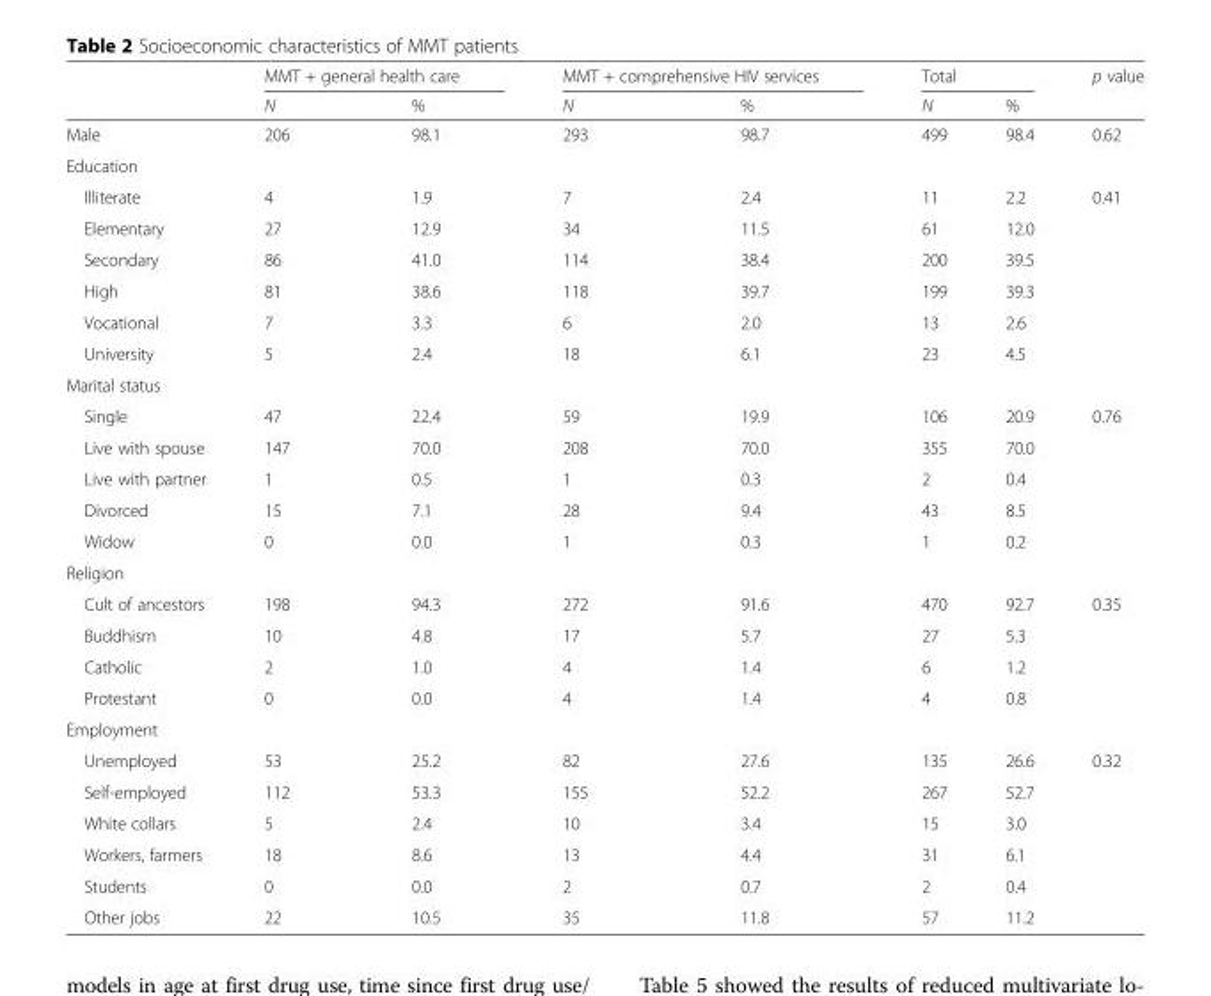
<table><thead><tr><td rowspan="2"></td><td colspan="2">MMT + general health care</td><td colspan="2">MMT + comprehensive HIV services</td><td colspan="2">Total</td><td rowspan="2">p value</td></tr><tr><td>N</td><td>%</td><td>N</td><td>%</td><td>N</td><td>%</td></tr></thead><tbody><tr><td>Male</td><td>206</td><td>98.1</td><td>293</td><td>98.7</td><td>499</td><td>98.4</td><td>0.62</td></tr><tr><td colspan="8">Education</td></tr><tr><td>Illiterate</td><td>4</td><td>1.9</td><td>7</td><td>2.4</td><td>11</td><td>2.2</td><td>0.41</td></tr><tr><td>Elementary</td><td>27</td><td>12.9</td><td>34</td><td>11.5</td><td>61</td><td>12.0</td><td></td></tr><tr><td>Secondary</td><td>86</td><td>41.0</td><td>114</td><td>38.4</td><td>200</td><td>39.5</td><td></td></tr><tr><td>High</td><td>81</td><td>38.6</td><td>118</td><td>39.7</td><td>199</td><td>39.3</td><td></td></tr><tr><td>Vocational</td><td>7</td><td>3.3</td><td>6</td><td>2.0</td><td>13</td><td>2.6</td><td></td></tr><tr><td>University</td><td>5</td><td>2.4</td><td>18</td><td>6.1</td><td>23</td><td>4.5</td><td></td></tr><tr><td colspan="8">Marital status</td></tr><tr><td>Single</td><td>47</td><td>22.4</td><td>59</td><td>19.9</td><td>106</td><td>20.9</td><td>0.76</td></tr><tr><td>Live with spouse</td><td>147</td><td>70.0</td><td>208</td><td>70.0</td><td>355</td><td>70.0</td><td></td></tr><tr><td>Live with partner</td><td>1</td><td>0.5</td><td>1</td><td>0.3</td><td>2</td><td>0.4</td><td></td></tr><tr><td>Divorced</td><td>15</td><td>7.1</td><td>28</td><td>9.4</td><td>43</td><td>8.5</td><td></td></tr><tr><td>Widow</td><td>0</td><td>0.0</td><td>1</td><td>0.3</td><td>1</td><td>0.2</td><td></td></tr><tr><td colspan="8">Religion</td></tr><tr><td>Cult of ancestors</td><td>198</td><td>94.3</td><td>272</td><td>91.6</td><td>470</td><td>92.7</td><td>0.35</td></tr><tr><td>Buddhism</td><td>10</td><td>4.8</td><td>17</td><td>5.7</td><td>27</td><td>5.3</td><td></td></tr><tr><td>Catholic</td><td>2</td><td>1.0</td><td>4</td><td>1.4</td><td>6</td><td>1.2</td><td></td></tr><tr><td>Protestant</td><td>0</td><td>0.0</td><td>4</td><td>1.4</td><td>4</td><td>0.8</td><td></td></tr><tr><td colspan="8">Employment</td></tr><tr><td>Unemployed</td><td>53</td><td>25.2</td><td>82</td><td>27.6</td><td>135</td><td>26.6</td><td>0.32</td></tr><tr><td>Self-employed</td><td>112</td><td>53.3</td><td>155</td><td>52.2</td><td>267</td><td>52.7</td><td></td></tr><tr><td>White collars</td><td>5</td><td>2.4</td><td>10</td><td>3.4</td><td>15</td><td>3.0</td><td></td></tr><tr><td>Workers, farmers</td><td>18</td><td>8.6</td><td>13</td><td>4.4</td><td>31</td><td>6.1</td><td></td></tr><tr><td>Students</td><td>0</td><td>0.0</td><td>2</td><td>0.7</td><td>2</td><td>0.4</td><td></td></tr><tr><td>Other jobs</td><td>22</td><td>10.5</td><td>35</td><td>11.8</td><td>57</td><td>11.2</td><td></td></tr></tbody></table>